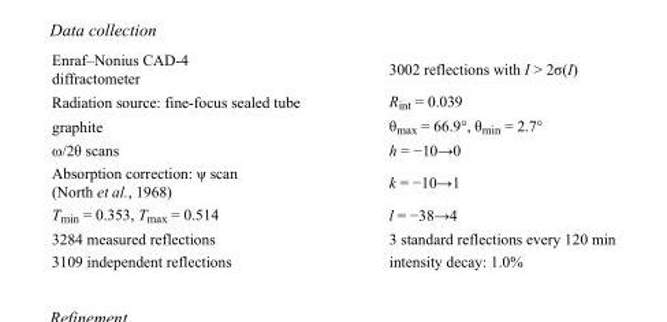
<table><tbody><tr><td>Enraf–Nonius CAD-4 diffractometer</td><td>3002 reflections with I &gt; 2σ(I)</td></tr><tr><td>Radiation source: fine-focus sealed tube</td><td>R<sub>int</sub> = 0.039</td></tr><tr><td>graphite</td><td>θ<sub>max</sub> = 66.9°, θ<sub>min</sub> = 2.7°</td></tr><tr><td>ω/2θ scans</td><td>h = −10→0</td></tr><tr><td>Absorption correction: ψ scan (North et al., 1968)</td><td>k = −10→1</td></tr><tr><td>T<sub>min</sub> = 0.353, T<sub>max</sub> = 0.514</td><td>l = −38→4</td></tr><tr><td>3284 measured reflections</td><td>3 standard reflections every 120 min</td></tr><tr><td>3109 independent reflections</td><td>intensity decay: 1.0%</td></tr></tbody></table>